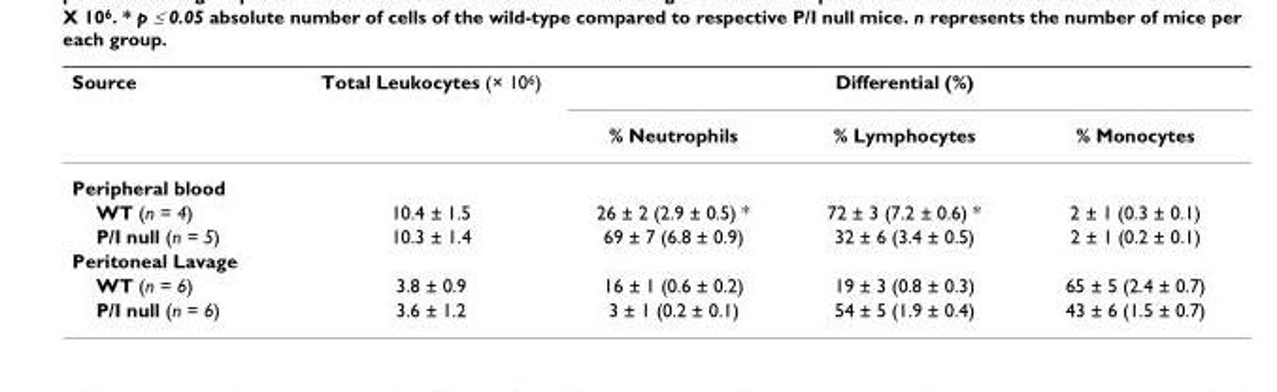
<table><thead><tr><td rowspan="2">Source</td><td rowspan="2">Total Leukocytes (× 10<sup>6</sup>)</td><td colspan="3">Differential (%)</td></tr><tr><td>% Neutrophils</td><td>% Lymphocytes</td><td>% Monocytes</td></tr></thead><tbody><tr><td colspan="5">Peripheral blood</td></tr><tr><td>WT (n = 4)</td><td>10.4 ± 1.5</td><td>26 ± 2 (2.9 ± 0.5) *</td><td>72 ± 3 (7.2 ± 0.6) *</td><td>2 ± 1 (0.3 ± 0.1)</td></tr><tr><td>P/I null (n = 5)</td><td>10.3 ± 1.4</td><td>69 ± 7 (6.8 ± 0.9)</td><td>32 ± 6 (3.4 ± 0.5)</td><td>2 ± 1 (0.2 ± 0.1)</td></tr><tr><td colspan="5">Peritoneal Lavage</td></tr><tr><td>WT (n = 6)</td><td>3.8 ± 0.9</td><td>16 ± 1 (0.6 ± 0.2)</td><td>19 ± 3 (0.8 ± 0.3)</td><td>65 ± 5 (2.4 ± 0.7)</td></tr><tr><td>P/I null (n = 6)</td><td>3.6 ± 1.2</td><td>3 ± 1 (0.2 ± 0.1)</td><td>54 ± 5 (1.9 ± 0.4)</td><td>43 ± 6 (1.5 ± 0.7)</td></tr></tbody></table>